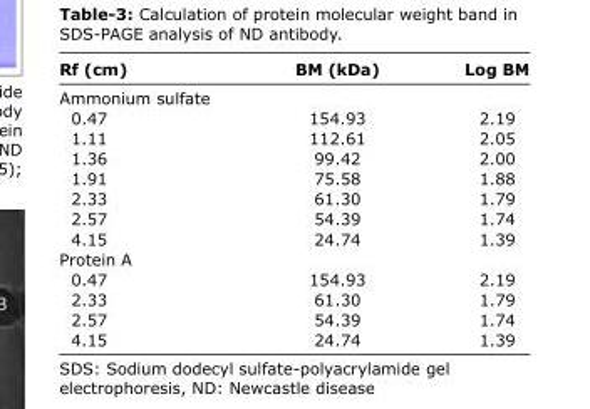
<table><thead><tr><td>Rf (cm)</td><td>BM (kDa)</td><td>Log BM</td></tr></thead><tbody><tr><td colspan="3">Ammonium sulfate</td></tr><tr><td>0.47</td><td>154.93</td><td>2.19</td></tr><tr><td>1.11</td><td>112.61</td><td>2.05</td></tr><tr><td>1.36</td><td>99.42</td><td>2.00</td></tr><tr><td>1.91</td><td>75.58</td><td>1.88</td></tr><tr><td>2.33</td><td>61.30</td><td>1.79</td></tr><tr><td>2.57</td><td>54.39</td><td>1.74</td></tr><tr><td>4.15</td><td>24.74</td><td>1.39</td></tr><tr><td colspan="3">Protein A</td></tr><tr><td>0.47</td><td>154.93</td><td>2.19</td></tr><tr><td>2.33</td><td>61.30</td><td>1.79</td></tr><tr><td>2.57</td><td>54.39</td><td>1.74</td></tr><tr><td>4.15</td><td>24.74</td><td>1.39</td></tr></tbody></table>